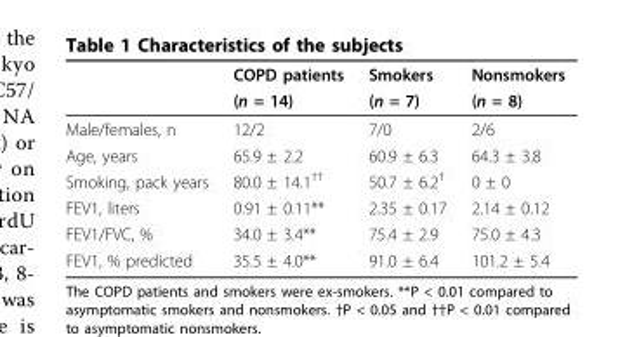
<table><thead><tr><td rowspan="2"></td><td rowspan="2">COPD patients (n = 14)</td><td rowspan="2">Smokers (n = 7)</td><td rowspan="2">Nonsmokers (n = 8)</td></tr><tr></tr></thead><tbody><tr><td>Male/females, n</td><td>12/2</td><td>7/0</td><td>2/6</td></tr><tr><td>Age, years</td><td>65.9 ± 2.2</td><td>60.9 ± 6.3</td><td>64.3 ± 3.8</td></tr><tr><td>Smoking, pack years</td><td>80.0 ± 14.1<sup>††</sup></td><td>50.7 ± 6.2<sup>†</sup></td><td>0 ± 0</td></tr><tr><td>FEV1, liters</td><td>0.91 ± 0.11**</td><td>2.35 ± 0.17</td><td>2.14 ± 0.12</td></tr><tr><td>FEV1/FVC, %</td><td>34.0 ± 3.4**</td><td>75.4 ± 2.9</td><td>75.0 ± 4.3</td></tr><tr><td>FEV1, % predicted</td><td>35.5 ± 4.0**</td><td>91.0 ± 6.4</td><td>101.2 ± 5.4</td></tr></tbody></table>